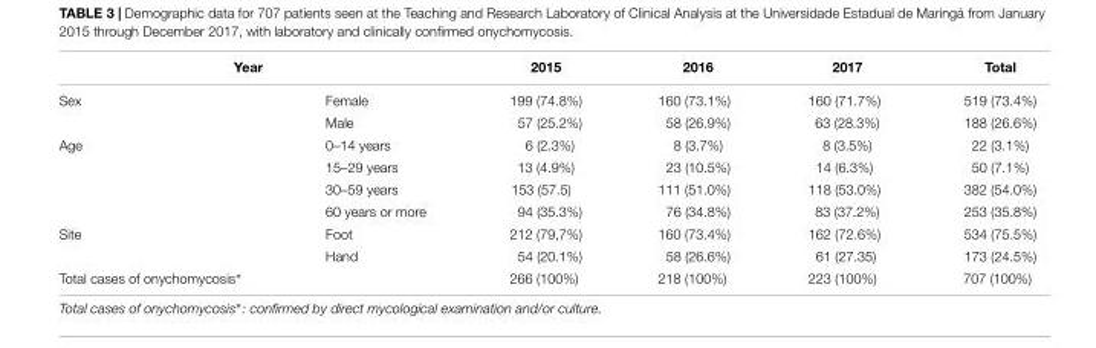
<table><thead><tr><td colspan="2">Year</td><td rowspan="2">2015 199 (74.8%)</td><td rowspan="2">2016 160 (73.1%)</td><td rowspan="2">2017 160 (71.7%)</td><td rowspan="2">Total 519 (73.4%)</td></tr><tr><td>Sex</td><td>Female</td></tr></thead><tbody><tr><td></td><td>Male</td><td>57 (25.2%)</td><td>58 (26.9%)</td><td>63 (28.3%)</td><td>188 (26.6%)</td></tr><tr><td rowspan="4">Age</td><td>0–14 years</td><td>6 (2.3%)</td><td>8 (3.7%)</td><td>8 (3.5%)</td><td>22 (3.1%)</td></tr><tr><td>15–29 years</td><td>13 (4.9%)</td><td>23 (10.5%)</td><td>14 (6.3%)</td><td>50 (7.1%)</td></tr><tr><td>30–59 years</td><td>153 (57.5)</td><td>111 (51.0%)</td><td>118 (53.0%)</td><td>382 (54.0%)</td></tr><tr><td>60 years or more</td><td>94 (35.3%)</td><td>76 (34.8%)</td><td>83 (37.2%)</td><td>253 (35.8%)</td></tr><tr><td rowspan="2">Site</td><td>Foot</td><td>212 (79,7%)</td><td>160 (73.4%)</td><td>162 (72.6%)</td><td>534 (75.5%)</td></tr><tr><td>Hand</td><td>54 (20.1%)</td><td>58 (26.6%)</td><td>61 (27.35)</td><td>173 (24.5%)</td></tr><tr><td>Total cases of onychomycosis∗</td><td></td><td>266 (100%)</td><td>218 (100%)</td><td>223 (100%)</td><td>707 (100%)</td></tr></tbody></table>